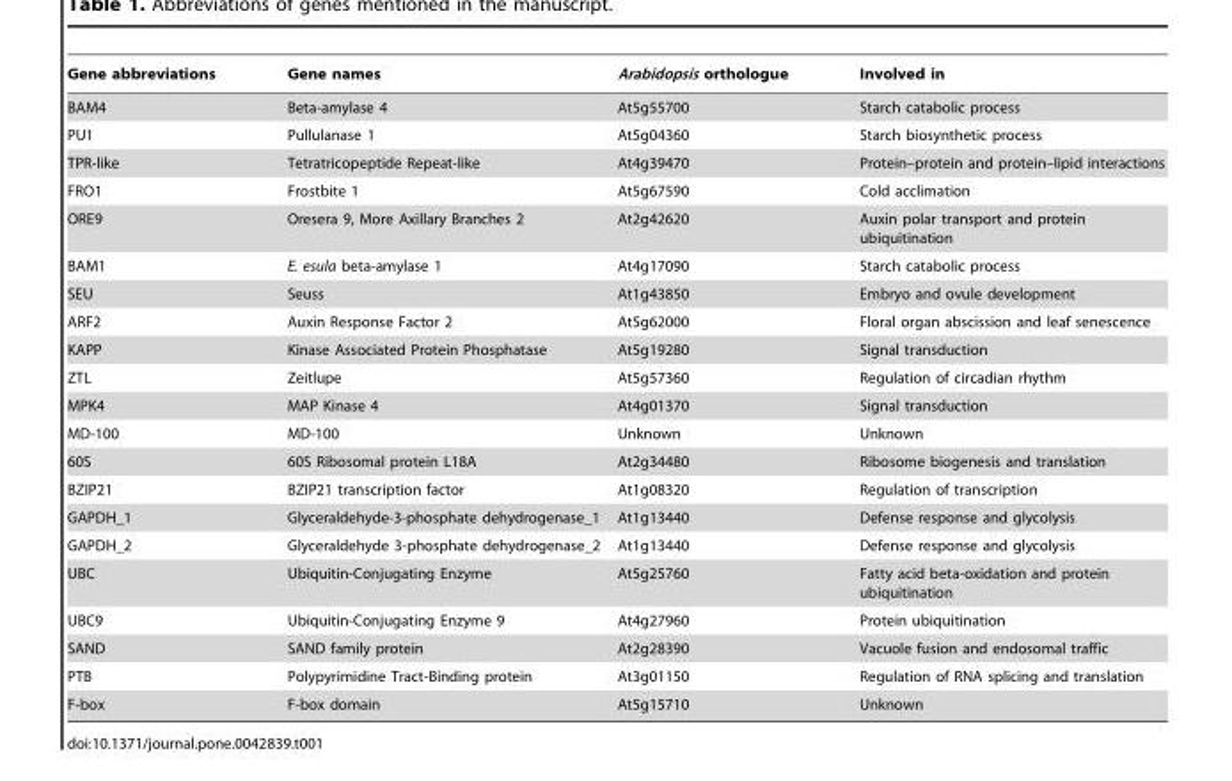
<table><thead><tr><td>Gene abbreviations</td><td>Gene names</td><td>Arabidopsis orthologue</td><td>Involved in</td></tr></thead><tbody><tr><td>BAM4</td><td>Beta-amylase 4</td><td>At5g55700</td><td>Starch catabolic process</td></tr><tr><td>PU1</td><td>Pullulanase 1</td><td>At5g04360</td><td>Starch biosynthetic process</td></tr><tr><td>TPR-like</td><td>Tetratricopeptide Repeat-like</td><td>At4g39470</td><td>Protein–protein and protein–lipid interactions</td></tr><tr><td>FRO1</td><td>Frostbite 1</td><td>At5g67590</td><td>Cold acclimation</td></tr><tr><td>ORE9</td><td>Oresera 9, More Axillary Branches 2</td><td>At2g42620</td><td>Auxin polar transport and protein ubiquitination</td></tr><tr><td>BAM1</td><td>E. esula beta-amylase 1</td><td>At4g17090</td><td>Starch catabolic process</td></tr><tr><td>SEU</td><td>Seuss</td><td>At1g43850</td><td>Embryo and ovule development</td></tr><tr><td>ARF2</td><td>Auxin Response Factor 2</td><td>At5g62000</td><td>Floral organ abscission and leaf senescence</td></tr><tr><td>KAPP</td><td>Kinase Associated Protein Phosphatase</td><td>At5g19280</td><td>Signal transduction</td></tr><tr><td>ZTL</td><td>Zeitlupe</td><td>At5g57360</td><td>Regulation of circadian rhythm</td></tr><tr><td>MPK4</td><td>MAP Kinase 4</td><td>At4g01370</td><td>Signal transduction</td></tr><tr><td>MD-100</td><td>MD-100</td><td>Unknown</td><td>Unknown</td></tr><tr><td>60S</td><td>60S Ribosomal protein L18A</td><td>At2g34480</td><td>Ribosome biogenesis and translation</td></tr><tr><td>BZIP21</td><td>BZIP21 transcription factor</td><td>At1g08320</td><td>Regulation of transcription</td></tr><tr><td>GAPDH_1</td><td>Glyceraldehyde-3-phosphate dehydrogenase_1</td><td>At1g13440</td><td>Defense response and glycolysis</td></tr><tr><td>GAPDH_2</td><td>Glyceraldehyde 3-phosphate dehydrogenase_2</td><td>At1g13440</td><td>Defense response and glycolysis</td></tr><tr><td>UBC</td><td>Ubiquitin-Conjugating Enzyme</td><td>At5g25760</td><td>Fatty acid beta-oxidation and protein ubiquitination</td></tr><tr><td>UBC9</td><td>Ubiquitin-Conjugating Enzyme 9</td><td>At4g27960</td><td>Protein ubiquitination</td></tr><tr><td>SAND</td><td>SAND family protein</td><td>At2g28390</td><td>Vacuole fusion and endosomal traffic</td></tr><tr><td>PTB</td><td>Polypyrimidine Tract-Binding protein</td><td>At3g01150</td><td>Regulation of RNA splicing and translation</td></tr><tr><td>F-box</td><td>F-box domain</td><td>At5g15710</td><td>Unknown</td></tr></tbody></table>